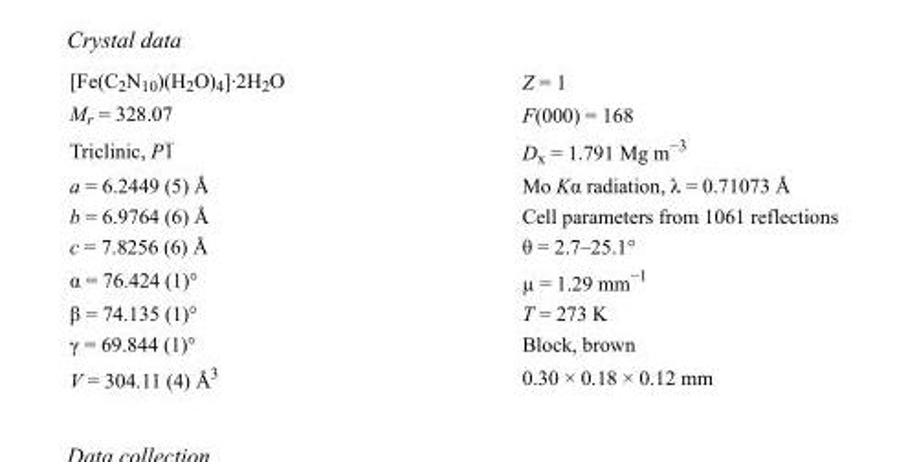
<table><tbody><tr><td>[Fe(C<sub>2</sub>N<sub>10</sub>)(H<sub>2</sub>O)<sub>4</sub>]·2H<sub>2</sub>O</td><td>Z = 1</td></tr><tr><td>M<sub>r</sub> = 328.07</td><td>F(000) = 168</td></tr><tr><td>Triclinic, P1</td><td>D<sub>x</sub> = 1.791 Mg m<sup>−3</sup></td></tr><tr><td>a = 6.2449 (5) Å</td><td>Mo Kα radiation, λ = 0.71073 Å</td></tr><tr><td>b = 6.9764 (6) Å</td><td>Cell parameters from 1061 reflections</td></tr><tr><td>c = 7.8256 (6) Å</td><td>θ = 2.7–25.1°</td></tr><tr><td>α = 76.424 (1)°</td><td>µ = 1.29 mm<sup>−1</sup></td></tr><tr><td>β = 74.135 (1)°</td><td>T = 273 K</td></tr><tr><td>γ = 69.844 (1)°</td><td>Block, brown</td></tr><tr><td>V = 304.11 (4) Å<sup>3</sup></td><td>0.30 × 0.18 × 0.12 mm</td></tr></tbody></table>